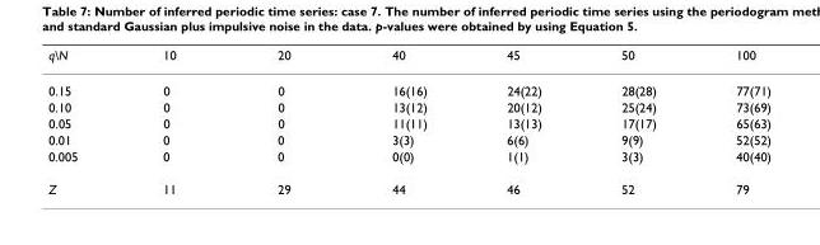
<table><thead><tr><td>q\N</td><td>10</td><td>20</td><td>40</td><td>45</td><td>50</td><td>100</td></tr></thead><tbody><tr><td>0.15</td><td>0</td><td>0</td><td>16(16)</td><td>24(22)</td><td>28(28)</td><td>77(71)</td></tr><tr><td>0.10</td><td>0</td><td>0</td><td>13(12)</td><td>20(12)</td><td>25(24)</td><td>73(69)</td></tr><tr><td>0.05</td><td>0</td><td>0</td><td>11(11)</td><td>13(13)</td><td>17(17)</td><td>65(63)</td></tr><tr><td>0.01</td><td>0</td><td>0</td><td>3(3)</td><td>6(6)</td><td>9(9)</td><td>52(52)</td></tr><tr><td>0.005</td><td>0</td><td>0</td><td>0(0)</td><td>1(1)</td><td>3(3)</td><td>40(40)</td></tr><tr><td>Z</td><td>11</td><td>29</td><td>44</td><td>46</td><td>52</td><td>79</td></tr></tbody></table>